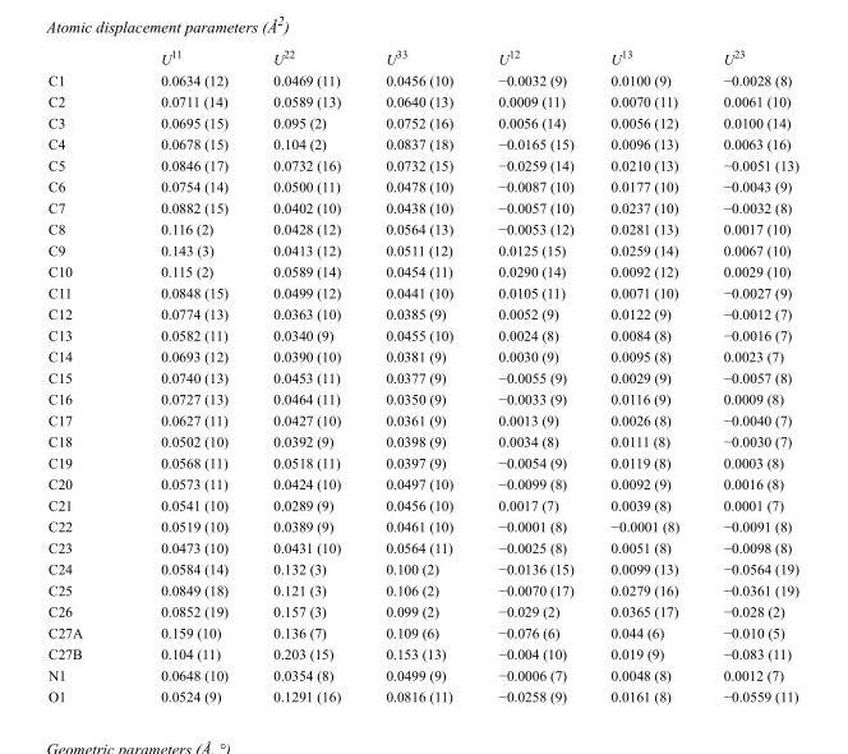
<table><thead><tr><td></td><td>U<sup>11</sup></td><td>U<sup>22</sup></td><td>U<sup>33</sup></td><td>U<sup>12</sup></td><td>U<sup>13</sup></td><td>U<sup>23</sup></td></tr></thead><tbody><tr><td>C1</td><td>0.0634 (12)</td><td>0.0469 (11)</td><td>0.0456 (10)</td><td>−0.0032 (9)</td><td>0.0100 (9)</td><td>−0.0028 (8)</td></tr><tr><td>C2</td><td>0.0711 (14)</td><td>0.0589 (13)</td><td>0.0640 (13)</td><td>0.0009 (11)</td><td>0.0070 (11)</td><td>0.0061 (10)</td></tr><tr><td>C3</td><td>0.0695 (15)</td><td>0.095 (2)</td><td>0.0752 (16)</td><td>0.0056 (14)</td><td>0.0056 (12)</td><td>0.0100 (14)</td></tr><tr><td>C4</td><td>0.0678 (15)</td><td>0.104 (2)</td><td>0.0837 (18)</td><td>−0.0165 (15)</td><td>0.0096 (13)</td><td>0.0063 (16)</td></tr><tr><td>C5</td><td>0.0846 (17)</td><td>0.0732 (16)</td><td>0.0732 (15)</td><td>−0.0259 (14)</td><td>0.0210 (13)</td><td>−0.0051 (13)</td></tr><tr><td>C6</td><td>0.0754 (14)</td><td>0.0500 (11)</td><td>0.0478 (10)</td><td>−0.0087 (10)</td><td>0.0177 (10)</td><td>−0.0043 (9)</td></tr><tr><td>C7</td><td>0.0882 (15)</td><td>0.0402 (10)</td><td>0.0438 (10)</td><td>−0.0057 (10)</td><td>0.0237 (10)</td><td>−0.0032 (8)</td></tr><tr><td>C8</td><td>0.116 (2)</td><td>0.0428 (12)</td><td>0.0564 (13)</td><td>−0.0053 (12)</td><td>0.0281 (13)</td><td>0.0017 (10)</td></tr><tr><td>C9</td><td>0.143 (3)</td><td>0.0413 (12)</td><td>0.0511 (12)</td><td>0.0125 (15)</td><td>0.0259 (14)</td><td>0.0067 (10)</td></tr><tr><td>C10</td><td>0.115 (2)</td><td>0.0589 (14)</td><td>0.0454 (11)</td><td>0.0290 (14)</td><td>0.0092 (12)</td><td>0.0029 (10)</td></tr><tr><td>C11</td><td>0.0848 (15)</td><td>0.0499 (12)</td><td>0.0441 (10)</td><td>0.0105 (11)</td><td>0.0071 (10)</td><td>−0.0027 (9)</td></tr><tr><td>C12</td><td>0.0774 (13)</td><td>0.0363 (10)</td><td>0.0385 (9)</td><td>0.0052 (9)</td><td>0.0122 (9)</td><td>−0.0012 (7)</td></tr><tr><td>C13</td><td>0.0582 (11)</td><td>0.0340 (9)</td><td>0.0455 (10)</td><td>0.0024 (8)</td><td>0.0084 (8)</td><td>−0.0016 (7)</td></tr><tr><td>C14</td><td>0.0693 (12)</td><td>0.0390 (10)</td><td>0.0381 (9)</td><td>0.0030 (9)</td><td>0.0095 (8)</td><td>0.0023 (7)</td></tr><tr><td>C15</td><td>0.0740 (13)</td><td>0.0453 (11)</td><td>0.0377 (9)</td><td>−0.0055 (9)</td><td>0.0029 (9)</td><td>−0.0057 (8)</td></tr><tr><td>C16</td><td>0.0727 (13)</td><td>0.0464 (11)</td><td>0.0350 (9)</td><td>−0.0033 (9)</td><td>0.0116 (9)</td><td>0.0009 (8)</td></tr><tr><td>C17</td><td>0.0627 (11)</td><td>0.0427 (10)</td><td>0.0361 (9)</td><td>0.0013 (9)</td><td>0.0026 (8)</td><td>−0.0040 (7)</td></tr><tr><td>C18</td><td>0.0502 (10)</td><td>0.0392 (9)</td><td>0.0398 (9)</td><td>0.0034 (8)</td><td>0.0111 (8)</td><td>−0.0030 (7)</td></tr><tr><td>C19</td><td>0.0568 (11)</td><td>0.0518 (11)</td><td>0.0397 (9)</td><td>−0.0054 (9)</td><td>0.0119 (8)</td><td>0.0003 (8)</td></tr><tr><td>C20</td><td>0.0573 (11)</td><td>0.0424 (10)</td><td>0.0497 (10)</td><td>−0.0099 (8)</td><td>0.0092 (9)</td><td>0.0016 (8)</td></tr><tr><td>C21</td><td>0.0541 (10)</td><td>0.0289 (9)</td><td>0.0456 (10)</td><td>0.0017 (7)</td><td>0.0039 (8)</td><td>0.0001 (7)</td></tr><tr><td>C22</td><td>0.0519 (10)</td><td>0.0389 (9)</td><td>0.0461 (10)</td><td>−0.0001 (8)</td><td>−0.0001 (8)</td><td>−0.0091 (8)</td></tr><tr><td>C23</td><td>0.0473 (10)</td><td>0.0431 (10)</td><td>0.0564 (11)</td><td>−0.0025 (8)</td><td>0.0051 (8)</td><td>−0.0098 (8)</td></tr><tr><td>C24</td><td>0.0584 (14)</td><td>0.132 (3)</td><td>0.100 (2)</td><td>−0.0136 (15)</td><td>0.0099 (13)</td><td>−0.0564 (19)</td></tr><tr><td>C25</td><td>0.0849 (18)</td><td>0.121 (3)</td><td>0.106 (2)</td><td>−0.0070 (17)</td><td>0.0279 (16)</td><td>−0.0361 (19)</td></tr><tr><td>C26</td><td>0.0852 (19)</td><td>0.157 (3)</td><td>0.099 (2)</td><td>−0.029 (2)</td><td>0.0365 (17)</td><td>−0.028 (2)</td></tr><tr><td>C27A</td><td>0.159 (10)</td><td>0.136 (7)</td><td>0.109 (6)</td><td>−0.076 (6)</td><td>0.044 (6)</td><td>−0.010 (5)</td></tr><tr><td>C27B</td><td>0.104 (11)</td><td>0.203 (15)</td><td>0.153 (13)</td><td>−0.004 (10)</td><td>0.019 (9)</td><td>−0.083 (11)</td></tr><tr><td>N1</td><td>0.0648 (10)</td><td>0.0354 (8)</td><td>0.0499 (9)</td><td>−0.0006 (7)</td><td>0.0048 (8)</td><td>0.0012 (7)</td></tr><tr><td>O1</td><td>0.0524 (9)</td><td>0.1291 (16)</td><td>0.0816 (11)</td><td>−0.0258 (9)</td><td>0.0161 (8)</td><td>−0.0559 (11)</td></tr></tbody></table>